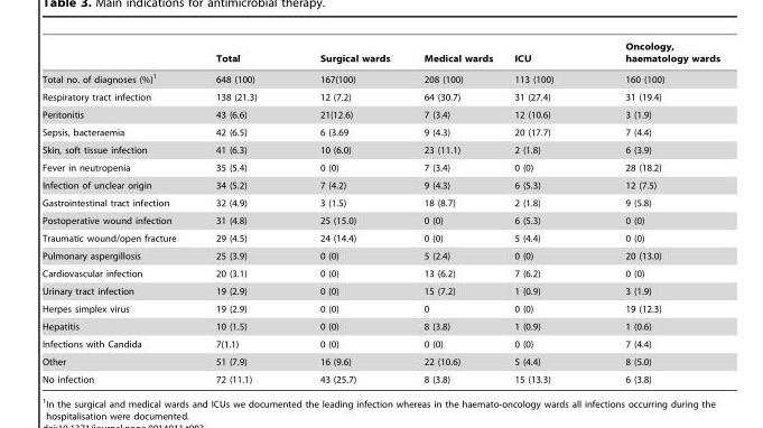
<table><thead><tr><td></td><td>Total</td><td>Surgical wards</td><td>Medical wards</td><td>ICU</td><td>Oncology, haematology wards</td></tr></thead><tbody><tr><td>Total no. of diagnoses (%)<sup>1</sup></td><td>648 (100)</td><td>167(100)</td><td>208 (100)</td><td>113 (100)</td><td>160 (100)</td></tr><tr><td>Respiratory tract infection</td><td>138 (21.3)</td><td>12 (7.2)</td><td>64 (30.7)</td><td>31 (27.4)</td><td>31 (19.4)</td></tr><tr><td>Peritonitis</td><td>43 (6.6)</td><td>21(12.6)</td><td>7 (3.4)</td><td>12 (10.6)</td><td>3 (1.9)</td></tr><tr><td>Sepsis, bacteraemia</td><td>42 (6.5)</td><td>6 (3.69</td><td>9 (4.3)</td><td>20 (17.7)</td><td>7 (4.4)</td></tr><tr><td>Skin, soft tissue infection</td><td>41 (6.3)</td><td>10 (6.0)</td><td>23 (11.1)</td><td>2 (1.8)</td><td>6 (3.9)</td></tr><tr><td>Fever in neutropenia</td><td>35 (5.4)</td><td>0 (0)</td><td>7 (3.4)</td><td>0 (0)</td><td>28 (18.2)</td></tr><tr><td>Infection of unclear origin</td><td>34 (5.2)</td><td>7 (4.2)</td><td>9 (4.3)</td><td>6 (5.3)</td><td>12 (7.5)</td></tr><tr><td>Gastrointestinal tract infection</td><td>32 (4.9)</td><td>3 (1.5)</td><td>18 (8.7)</td><td>2 (1.8)</td><td>9 (5.8)</td></tr><tr><td>Postoperative wound infection</td><td>31 (4.8)</td><td>25 (15.0)</td><td>0 (0)</td><td>6 (5.3)</td><td>0 (0)</td></tr><tr><td>Traumatic wound/open fracture</td><td>29 (4.5)</td><td>24 (14.4)</td><td>0 (0)</td><td>5 (4.4)</td><td>0 (0)</td></tr><tr><td>Pulmonary aspergillosis</td><td>25 (3.9)</td><td>0 (0)</td><td>5 (2.4)</td><td>0 (0)</td><td>20 (13.0)</td></tr><tr><td>Cardiovascular infection</td><td>20 (3.1)</td><td>0 (0)</td><td>13 (6.2)</td><td>7 (6.2)</td><td>0 (0)</td></tr><tr><td>Urinary tract infection</td><td>19 (2.9)</td><td>0 (0)</td><td>15 (7.2)</td><td>1 (0.9)</td><td>3 (1.9)</td></tr><tr><td>Herpes simplex virus</td><td>19 (2.9)</td><td>0 (0)</td><td>0</td><td>0 (0)</td><td>19 (12.3)</td></tr><tr><td>Hepatitis</td><td>10 (1.5)</td><td>0 (0)</td><td>8 (3.8)</td><td>1 (0.9)</td><td>1 (0.6)</td></tr><tr><td>Infections with Candida</td><td>7(1.1)</td><td>0 (0)</td><td>0 (0)</td><td>0 (0)</td><td>7 (4.4)</td></tr><tr><td>Other</td><td>51 (7.9)</td><td>16 (9.6)</td><td>22 (10.6)</td><td>5 (4.4)</td><td>8 (5.0)</td></tr><tr><td>No infection</td><td>72 (11.1)</td><td>43 (25.7)</td><td>8 (3.8)</td><td>15 (13.3)</td><td>6 (3.8)</td></tr></tbody></table>